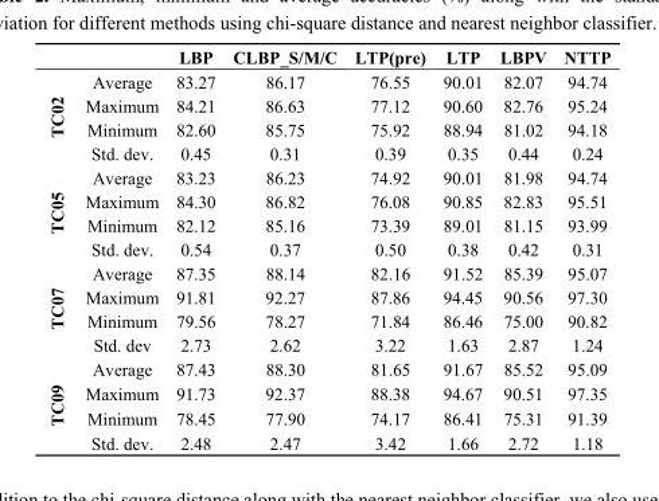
<table><thead><tr><td></td><td></td><td>LBP</td><td>CLBP_S/M/C</td><td>LTP(pre)</td><td>LTP</td><td>LBPV</td><td>NTTP</td></tr></thead><tbody><tr><td rowspan="4">TC02</td><td>Average</td><td>83.27</td><td>86.17</td><td>76.55</td><td>90.01</td><td>82.07</td><td>94.74</td></tr><tr><td>Maximum</td><td>84.21</td><td>86.63</td><td>77.12</td><td>90.60</td><td>82.76</td><td>95.24</td></tr><tr><td>Minimum</td><td>82.60</td><td>85.75</td><td>75.92</td><td>88.94</td><td>81.02</td><td>94.18</td></tr><tr><td>Std. dev.</td><td>0.45</td><td>0.31</td><td>0.39</td><td>0.35</td><td>0.44</td><td>0.24</td></tr><tr><td rowspan="4">TC05</td><td>Average</td><td>83.23</td><td>86.23</td><td>74.92</td><td>90.01</td><td>81.98</td><td>94.74</td></tr><tr><td>Maximum</td><td>84.30</td><td>86.82</td><td>76.08</td><td>90.85</td><td>82.83</td><td>95.51</td></tr><tr><td>Minimum</td><td>82.12</td><td>85.16</td><td>73.39</td><td>89.01</td><td>81.15</td><td>93.99</td></tr><tr><td>Std. dev.</td><td>0.54</td><td>0.37</td><td>0.50</td><td>0.38</td><td>0.42</td><td>0.31</td></tr><tr><td rowspan="4">TC07</td><td>Average</td><td>87.35</td><td>88.14</td><td>82.16</td><td>91.52</td><td>85.39</td><td>95.07</td></tr><tr><td>Maximum</td><td>91.81</td><td>92.27</td><td>87.86</td><td>94.45</td><td>90.56</td><td>97.30</td></tr><tr><td>Minimum</td><td>79.56</td><td>78.27</td><td>71.84</td><td>86.46</td><td>75.00</td><td>90.82</td></tr><tr><td>Std. dev</td><td>2.73</td><td>2.62</td><td>3.22</td><td>1.63</td><td>2.87</td><td>1.24</td></tr><tr><td rowspan="4">TC09</td><td>Average</td><td>87.43</td><td>88.30</td><td>81.65</td><td>91.67</td><td>85.52</td><td>95.09</td></tr><tr><td>Maximum</td><td>91.73</td><td>92.37</td><td>88.38</td><td>94.67</td><td>90.51</td><td>97.35</td></tr><tr><td>Minimum</td><td>78.45</td><td>77.90</td><td>74.17</td><td>86.41</td><td>75.31</td><td>91.39</td></tr><tr><td>Std. dev.</td><td>2.48</td><td>2.47</td><td>3.42</td><td>1.66</td><td>2.72</td><td>1.18</td></tr></tbody></table>